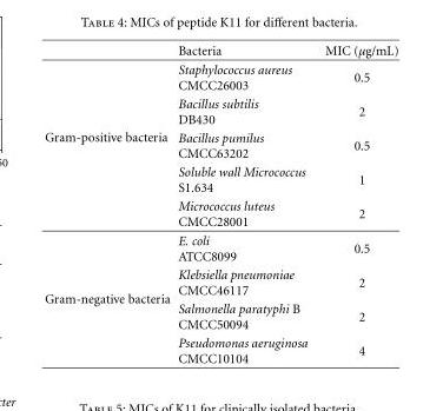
<table><thead><tr><td></td><td>Bacteria</td><td>MIC (μg/mL)</td></tr></thead><tbody><tr><td rowspan="5">Gram-positive bacteria</td><td>Staphylococcus aureus CMCC26003</td><td>0.5</td></tr><tr><td>Bacillus subtilis DB430</td><td>2</td></tr><tr><td>Bacillus pumilus CMCC63202</td><td>0.5</td></tr><tr><td>Soluble wall Micrococcus S1.634</td><td>1</td></tr><tr><td>Micrococcus luteus CMCC28001</td><td>2</td></tr><tr><td rowspan="4">Gram-negative bacteria</td><td>E. coli ATCC8099</td><td>0.5</td></tr><tr><td>Klebsiella pneumoniae CMCC46117</td><td>2</td></tr><tr><td>Salmonella paratyphi B CMCC50094</td><td>2</td></tr><tr><td>Pseudomonas aeruginosa CMCC10104</td><td>4</td></tr></tbody></table>